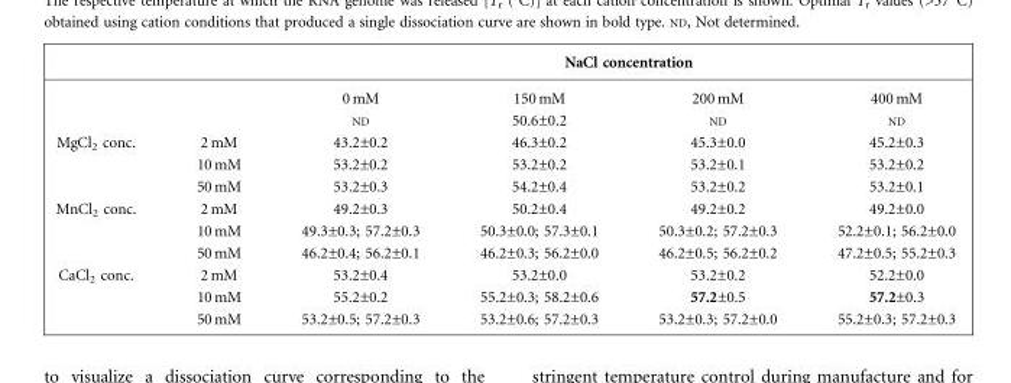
<table><thead><tr><td rowspan="2"></td><td rowspan="2"></td><td colspan="4">NaCl concentration</td></tr><tr><td>0 mM</td><td>150 mM</td><td>200 mM</td><td>400 mM</td></tr></thead><tbody><tr><td></td><td></td><td>ND</td><td>50.6±0.2</td><td>ND</td><td>ND</td></tr><tr><td rowspan="3">MgCl<sub>2</sub> conc.</td><td>2 mM</td><td>43.2±0.2</td><td>46.3±0.2</td><td>45.3±0.0</td><td>45.2±0.3</td></tr><tr><td>10 mM</td><td>53.2±0.2</td><td>53.2±0.2</td><td>53.2±0.1</td><td>53.2±0.2</td></tr><tr><td>50 mM</td><td>53.2±0.3</td><td>54.2±0.4</td><td>53.2±0.2</td><td>53.2±0.1</td></tr><tr><td rowspan="3">MnCl<sub>2</sub> conc.</td><td>2 mM</td><td>49.2±0.3</td><td>50.2±0.4</td><td>49.2±0.2</td><td>49.2±0.0</td></tr><tr><td>10 mM</td><td>49.3±0.3; 57.2±0.3</td><td>50.3±0.0; 57.3±0.1</td><td>50.3±0.2; 57.2±0.3</td><td>52.2±0.1; 56.2±0.0</td></tr><tr><td>50 mM</td><td>46.2±0.4; 56.2±0.1</td><td>46.2±0.3; 56.2±0.0</td><td>46.2±0.5; 56.2±0.2</td><td>47.2±0.5; 55.2±0.3</td></tr><tr><td rowspan="3">CaCl<sub>2</sub> conc.</td><td>2 mM</td><td>53.2±0.4</td><td>53.2±0.0</td><td>53.2±0.2</td><td>52.2±0.0</td></tr><tr><td>10 mM</td><td>55.2±0.2</td><td>55.2±0.3; 58.2±0.6</td><td>57.2±0.5</td><td>57.2±0.3</td></tr><tr><td>50 mM</td><td>53.2±0.5; 57.2±0.3</td><td>53.2±0.6; 57.2±0.3</td><td>53.2±0.3; 57.2±0.0</td><td>55.2±0.3; 57.2±0.3</td></tr></tbody></table>